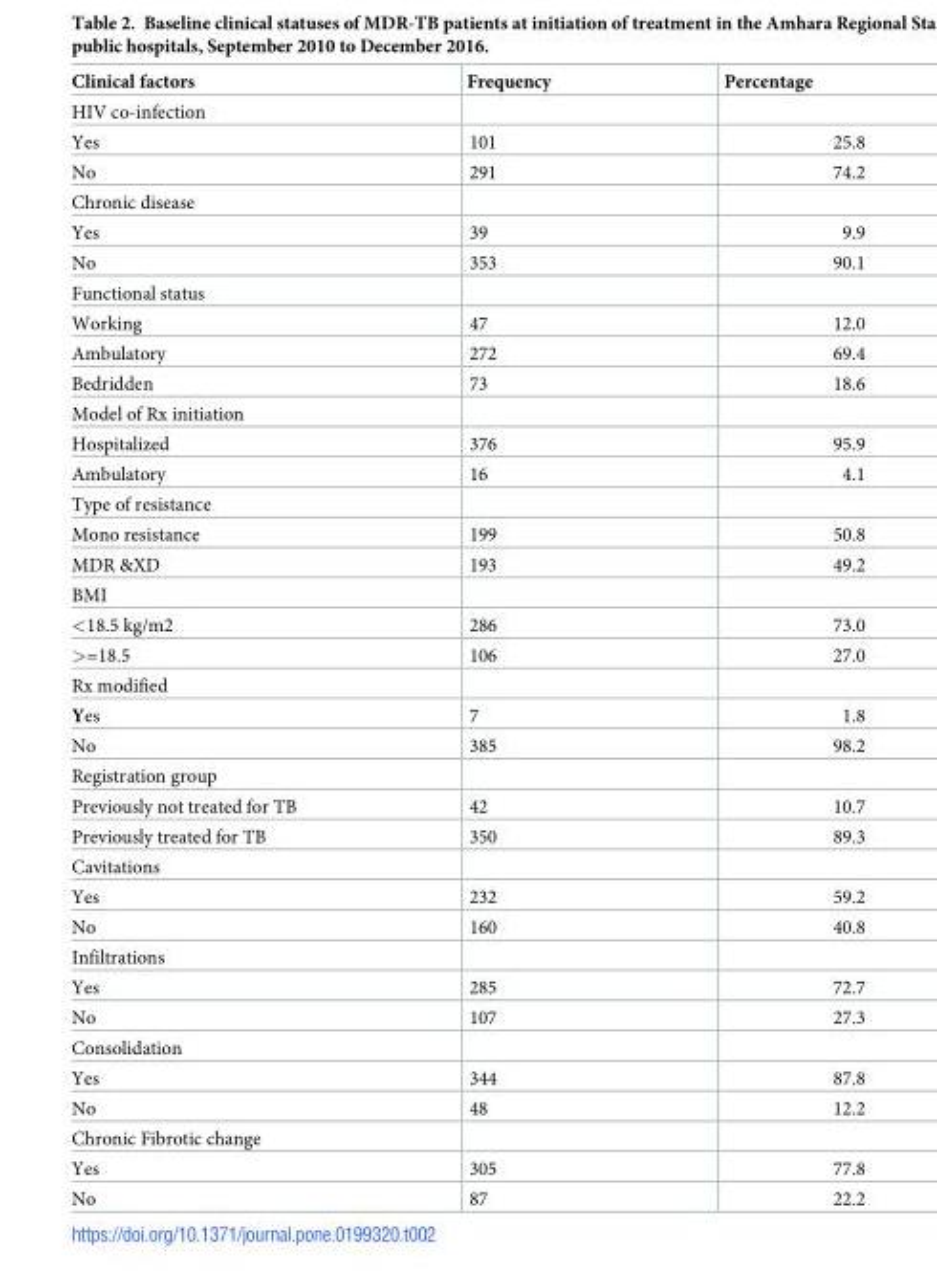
<table><thead><tr><td>Clinical factors</td><td>Frequency</td><td>Percentage</td></tr></thead><tbody><tr><td colspan="3">HIV co-infection</td></tr><tr><td>Yes</td><td>101</td><td>25.8</td></tr><tr><td>No</td><td>291</td><td>74.2</td></tr><tr><td colspan="3">Chronic disease</td></tr><tr><td>Yes</td><td>39</td><td>9.9</td></tr><tr><td>No</td><td>353</td><td>90.1</td></tr><tr><td colspan="3">Functional status</td></tr><tr><td>Working</td><td>47</td><td>12.0</td></tr><tr><td>Ambulatory</td><td>272</td><td>69.4</td></tr><tr><td>Bedridden</td><td>73</td><td>18.6</td></tr><tr><td colspan="3">Model of Rx initiation</td></tr><tr><td>Hospitalized</td><td>376</td><td>95.9</td></tr><tr><td>Ambulatory</td><td>16</td><td>4.1</td></tr><tr><td colspan="3">Type of resistance</td></tr><tr><td>Mono resistance</td><td>199</td><td>50.8</td></tr><tr><td>MDR &amp;XD</td><td>193</td><td>49.2</td></tr><tr><td colspan="3">BMI</td></tr><tr><td>&lt;18.5 kg/m2</td><td>286</td><td>73.0</td></tr><tr><td>&gt;=18.5</td><td>106</td><td>27.0</td></tr><tr><td colspan="3">Rx modified</td></tr><tr><td>Yes</td><td>7</td><td>1.8</td></tr><tr><td>No</td><td>385</td><td>98.2</td></tr><tr><td colspan="3">Registration group</td></tr><tr><td>Previously not treated for TB</td><td>42</td><td>10.7</td></tr><tr><td>Previously treated for TB</td><td>350</td><td>89.3</td></tr><tr><td colspan="3">Cavitations</td></tr><tr><td>Yes</td><td>232</td><td>59.2</td></tr><tr><td>No</td><td>160</td><td>40.8</td></tr><tr><td colspan="3">Infiltrations</td></tr><tr><td>Yes</td><td>285</td><td>72.7</td></tr><tr><td>No</td><td>107</td><td>27.3</td></tr><tr><td colspan="3">Consolidation</td></tr><tr><td>Yes</td><td>344</td><td>87.8</td></tr><tr><td>No</td><td>48</td><td>12.2</td></tr><tr><td colspan="3">Chronic Fibrotic change</td></tr><tr><td>Yes</td><td>305</td><td>77.8</td></tr><tr><td>No</td><td>87</td><td>22.2</td></tr></tbody></table>